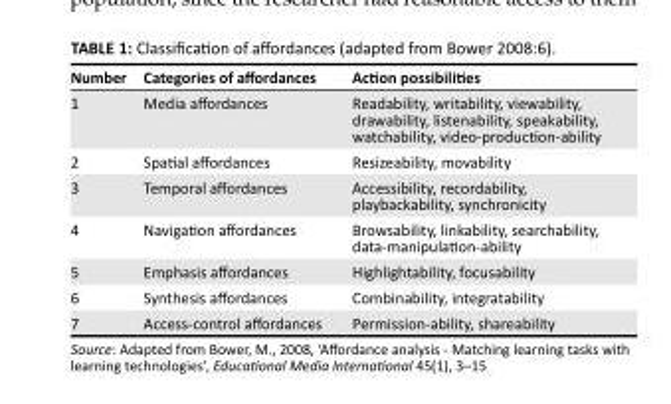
<table><thead><tr><td>Number</td><td>Categories of affordances</td><td>Action possibilities</td></tr></thead><tbody><tr><td>1</td><td>Media affordances</td><td>Readability, writability, viewability, drawability, listenability, speakability, watchability, video-production-ability</td></tr><tr><td>2</td><td>Spatial affordances</td><td>Resizeability, movability</td></tr><tr><td>3</td><td>Temporal affordances</td><td>Accessibility, recordability, playbackability, synchronicity</td></tr><tr><td>4</td><td>Navigation affordances</td><td>Browsability, linkability, searchability, data-manipulation-ability</td></tr><tr><td>5</td><td>Emphasis affordances</td><td>Highlightability, focusability</td></tr><tr><td>6</td><td>Synthesis affordances</td><td>Combinability, integratability</td></tr><tr><td>7</td><td>Access-control affordances</td><td>Permission-ability, shareability</td></tr></tbody></table>